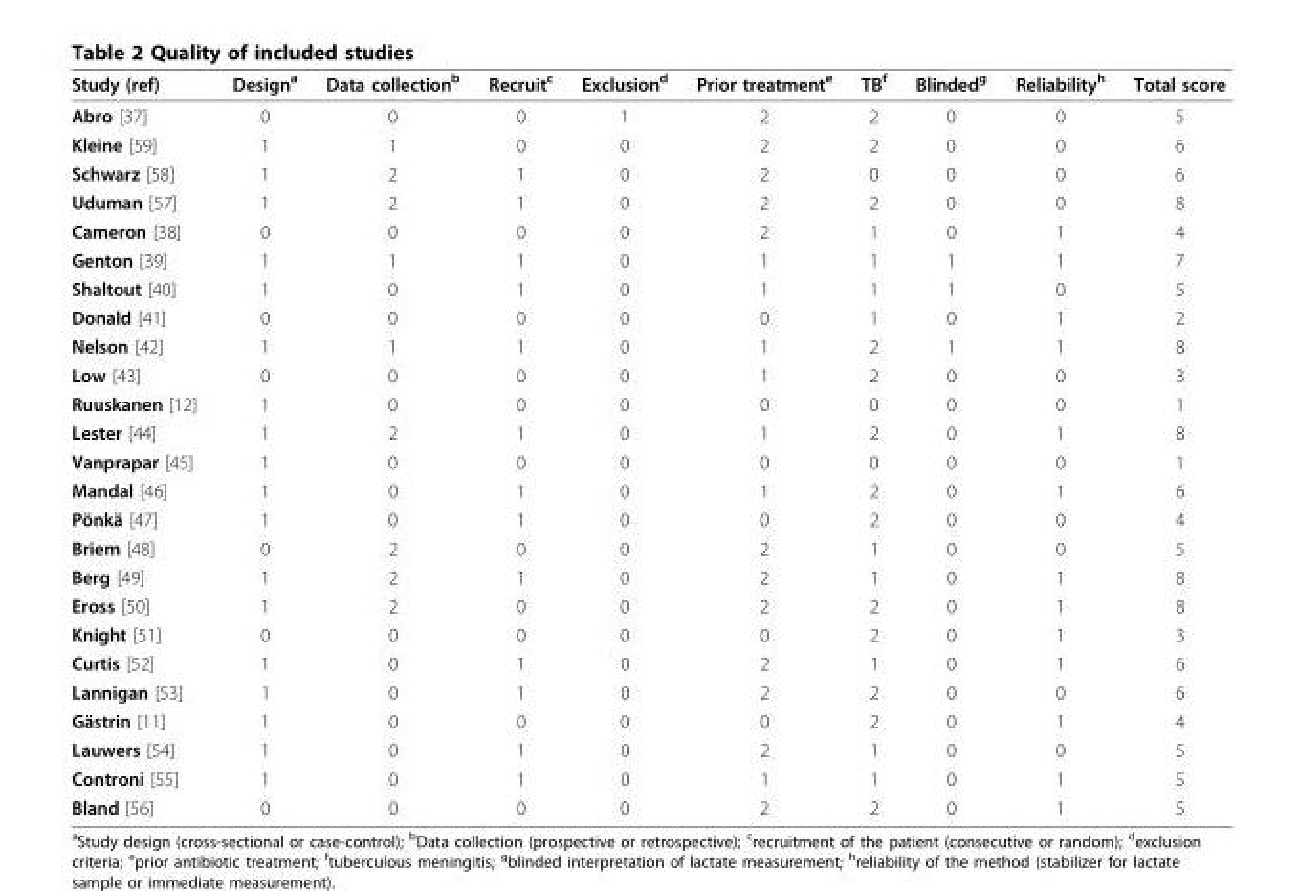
<table><thead><tr><td>Study (ref)</td><td>Design<sup>a</sup></td><td>Data collection<sup>b</sup></td><td>Recruit<sup>c</sup></td><td>Exclusion<sup>d</sup></td><td>Prior treatment<sup>e</sup></td><td>TB<sup>f</sup></td><td>Blinded<sup>g</sup></td><td>Reliability<sup>h</sup></td><td>Total score</td></tr></thead><tbody><tr><td>Abro [37]</td><td>0</td><td>0</td><td>0</td><td>1</td><td>2</td><td>2</td><td>0</td><td>0</td><td>5</td></tr><tr><td>Kleine [59]</td><td>1</td><td>1</td><td>0</td><td>0</td><td>2</td><td>2</td><td>0</td><td>0</td><td>6</td></tr><tr><td>Schwarz [58]</td><td>1</td><td>2</td><td>1</td><td>0</td><td>2</td><td>0</td><td>0</td><td>0</td><td>6</td></tr><tr><td>Uduman [57]</td><td>1</td><td>2</td><td>1</td><td>0</td><td>2</td><td>2</td><td>0</td><td>0</td><td>8</td></tr><tr><td>Cameron [38]</td><td>0</td><td>0</td><td>0</td><td>0</td><td>2</td><td>1</td><td>0</td><td>1</td><td>4</td></tr><tr><td>Genton [39]</td><td>1</td><td>1</td><td>1</td><td>0</td><td>1</td><td>1</td><td>1</td><td>1</td><td>7</td></tr><tr><td>Shaltout [40]</td><td>1</td><td>0</td><td>1</td><td>0</td><td>1</td><td>1</td><td>1</td><td>0</td><td>5</td></tr><tr><td>Donald [41]</td><td>0</td><td>0</td><td>0</td><td>0</td><td>0</td><td>1</td><td>0</td><td>1</td><td>2</td></tr><tr><td>Nelson [42]</td><td>1</td><td>1</td><td>1</td><td>0</td><td>1</td><td>2</td><td>1</td><td>1</td><td>8</td></tr><tr><td>Low [43]</td><td>0</td><td>0</td><td>0</td><td>0</td><td>1</td><td>2</td><td>0</td><td>0</td><td>3</td></tr><tr><td>Ruuskanen [12]</td><td>1</td><td>0</td><td>0</td><td>0</td><td>0</td><td>0</td><td>0</td><td>0</td><td>1</td></tr><tr><td>Lester [44]</td><td>1</td><td>2</td><td>1</td><td>0</td><td>1</td><td>2</td><td>0</td><td>1</td><td>8</td></tr><tr><td>Vanprapar [45]</td><td>1</td><td>0</td><td>0</td><td>0</td><td>0</td><td>0</td><td>0</td><td>0</td><td>1</td></tr><tr><td>Mandal [46]</td><td>1</td><td>0</td><td>1</td><td>0</td><td>1</td><td>2</td><td>0</td><td>1</td><td>6</td></tr><tr><td>Pönkä [47]</td><td>1</td><td>0</td><td>1</td><td>0</td><td>0</td><td>2</td><td>0</td><td>0</td><td>4</td></tr><tr><td>Briem [48]</td><td>0</td><td>2</td><td>0</td><td>0</td><td>2</td><td>1</td><td>0</td><td>0</td><td>5</td></tr><tr><td>Berg [49]</td><td>1</td><td>2</td><td>1</td><td>0</td><td>2</td><td>1</td><td>0</td><td>1</td><td>8</td></tr><tr><td>Eross [50]</td><td>1</td><td>2</td><td>0</td><td>0</td><td>2</td><td>2</td><td>0</td><td>1</td><td>8</td></tr><tr><td>Knight [51]</td><td>0</td><td>0</td><td>0</td><td>0</td><td>0</td><td>2</td><td>0</td><td>1</td><td>3</td></tr><tr><td>Curtis [52]</td><td>1</td><td>0</td><td>1</td><td>0</td><td>2</td><td>1</td><td>0</td><td>1</td><td>6</td></tr><tr><td>Lannigan [53]</td><td>1</td><td>0</td><td>1</td><td>0</td><td>2</td><td>2</td><td>0</td><td>0</td><td>6</td></tr><tr><td>Gästrin [11]</td><td>1</td><td>0</td><td>0</td><td>0</td><td>0</td><td>2</td><td>0</td><td>1</td><td>4</td></tr><tr><td>Lauwers [54]</td><td>1</td><td>0</td><td>1</td><td>0</td><td>2</td><td>1</td><td>0</td><td>0</td><td>5</td></tr><tr><td>Controni [55]</td><td>1</td><td>0</td><td>1</td><td>0</td><td>1</td><td>1</td><td>0</td><td>1</td><td>5</td></tr><tr><td>Bland [56]</td><td>0</td><td>0</td><td>0</td><td>0</td><td>2</td><td>2</td><td>0</td><td>1</td><td>5</td></tr></tbody></table>